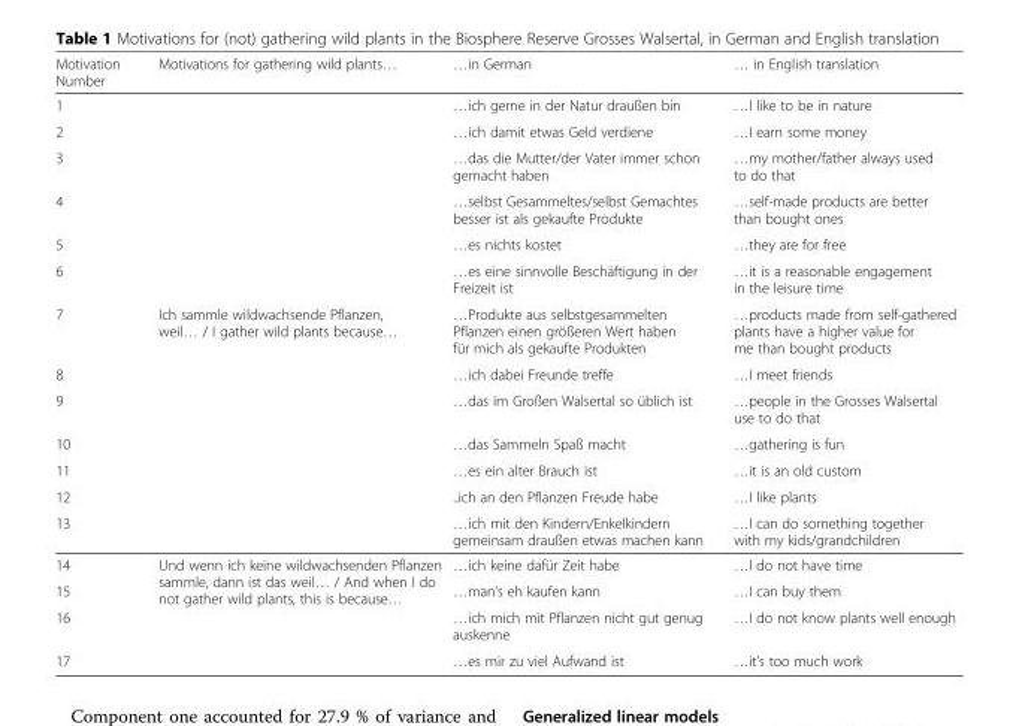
<table><thead><tr><td>Motivation Number</td><td>Motivations for gathering wild plants…</td><td>…in German</td><td>… in English translation</td></tr></thead><tbody><tr><td>1</td><td rowspan="13">Ich sammle wildwachsende Pflanzen, weil… / I gather wild plants because…</td><td>…ich gerne in der Natur draußen bin</td><td>…I like to be in nature</td></tr><tr><td>2</td><td>…ich damit etwas Geld verdiene</td><td>…I earn some money</td></tr><tr><td>3</td><td>…das die Mutter/der Vater immer schon gemacht haben</td><td>…my mother/father always used to do that</td></tr><tr><td>4</td><td>…selbst Gesammeltes/selbst Gemachtes besser ist als gekaufte Produkte</td><td>…self-made products are better than bought ones</td></tr><tr><td>5</td><td>…es nichts kostet</td><td>…they are for free</td></tr><tr><td>6</td><td>…es eine sinnvolle Beschäftigung in der Freizeit ist</td><td>…it is a reasonable engagement in the leisure time</td></tr><tr><td>7</td><td>…Produkte aus selbstgesammelten Pflanzen einen größeren Wert haben für mich als gekaufte Produkten</td><td>…products made from self-gathered plants have a higher value for me than bought products</td></tr><tr><td>8</td><td>…ich dabei Freunde treffe</td><td>…I meet friends</td></tr><tr><td>9</td><td>…das im Großen Walsertal so üblich ist</td><td>…people in the Grosses Walsertal use to do that</td></tr><tr><td>10</td><td>…das Sammeln Spaß macht</td><td>…gathering is fun</td></tr><tr><td>11</td><td>…es ein alter Brauch ist</td><td>…it is an old custom</td></tr><tr><td>12</td><td>..ich an den Pflanzen Freude habe</td><td>…I like plants</td></tr><tr><td>13</td><td>…ich mit den Kindern/Enkelkindern gemeinsam draußen etwas machen kann</td><td>…I can do something together with my kids/grandchildren</td></tr><tr><td>14</td><td rowspan="4">Und wenn ich keine wildwachsenden Pflanzen sammle, dann ist das weil… / And when I do not gather wild plants, this is because…</td><td>…ich keine dafür Zeit habe</td><td>…I do not have time</td></tr><tr><td>15</td><td>…man‘s eh kaufen kann</td><td>…I can buy them</td></tr><tr><td>16</td><td>…ich mich mit Pflanzen nicht gut genug auskenne</td><td>…I do not know plants well enough</td></tr><tr><td>17</td><td>…es mir zu viel Aufwand ist</td><td>…it’s too much work</td></tr></tbody></table>